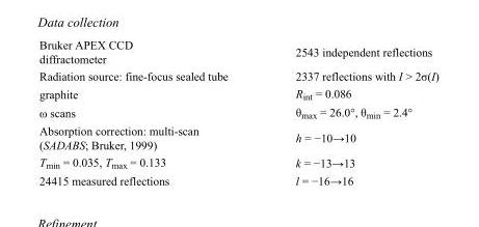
<table><tbody><tr><td>Bruker APEX CCD diffractometer</td><td>2543 independent reflections</td></tr><tr><td>Radiation source: fine-focus sealed tube</td><td>2337 reflections with I &gt; 2σ(I)</td></tr><tr><td>graphite</td><td>R<sub>int</sub> = 0.086</td></tr><tr><td>ω scans</td><td>θ<sub>max</sub> = 26.0°, θ<sub>min</sub> = 2.4°</td></tr><tr><td>Absorption correction: multi-scan (SADABS; Bruker, 1999)</td><td>h = −10→10</td></tr><tr><td>T<sub>min</sub> = 0.035, T<sub>max</sub> = 0.133</td><td>k = −13→13</td></tr><tr><td>24415 measured reflections</td><td>l = −16→16</td></tr></tbody></table>